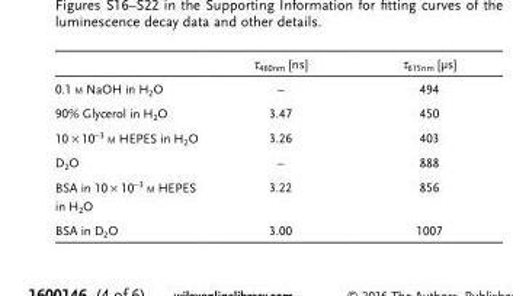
<table><thead><tr><td></td><td>τ<sub>460nm</sub> [ns]</td><td>τ<sub>615nm</sub> [μs]</td></tr></thead><tbody><tr><td>0.1 m NaOH in H<sub>2</sub>O</td><td>–</td><td>494</td></tr><tr><td>90% Glycerol in H<sub>2</sub>O</td><td>3.47</td><td>450</td></tr><tr><td>10 × 10<sup>−3</sup> m HEPES in H<sub>2</sub>O</td><td>3.26</td><td>403</td></tr><tr><td>D<sub>2</sub>O</td><td>–</td><td>888</td></tr><tr><td>BSA in 10 × 10<sup>−3</sup> m HEPES in H<sub>2</sub>O</td><td>3.22</td><td>856</td></tr><tr><td>BSA in D<sub>2</sub>O</td><td>3.00</td><td>1007</td></tr></tbody></table>